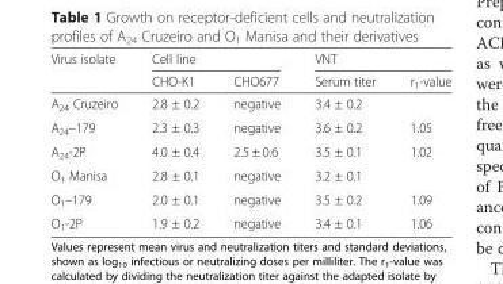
<table><thead><tr><td rowspan="2">Virus isolate</td><td colspan="2">Cell line</td><td colspan="2">VNT</td></tr><tr><td>CHO-K1</td><td>CHO677</td><td>Serum titer</td><td>r<sub>1</sub>-value</td></tr></thead><tbody><tr><td>A<sub>24</sub> Cruzeiro</td><td>2.8 ± 0.2</td><td>negative</td><td>3.4 ± 0.2</td><td></td></tr><tr><td>A<sub>24</sub>–179</td><td>2.3 ± 0.3</td><td>negative</td><td>3.6 ± 0.2</td><td>1.05</td></tr><tr><td>A<sub>24</sub>-2P</td><td>4.0 ± 0.4</td><td>2.5 ± 0.6</td><td>3.5 ± 0.1</td><td>1.02</td></tr><tr><td>O<sub>1</sub> Manisa</td><td>2.8 ± 0.1</td><td>negative</td><td>3.2 ± 0.1</td><td></td></tr><tr><td>O<sub>1</sub>–179</td><td>2.0 ± 0.1</td><td>negative</td><td>3.5 ± 0.2</td><td>1.09</td></tr><tr><td>O<sub>1</sub>-2P</td><td>1.9 ± 0.2</td><td>negative</td><td>3.4 ± 0.1</td><td>1.06</td></tr></tbody></table>